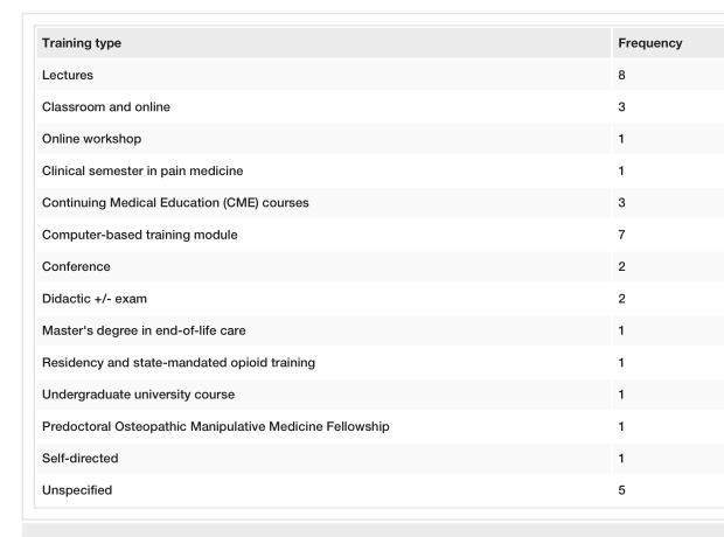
<table><tbody><tr><td>Training type</td><td>Frequency</td></tr><tr><td>Lectures</td><td>8</td></tr><tr><td>Classroom and online</td><td>3</td></tr><tr><td>Online workshop</td><td>1</td></tr><tr><td>Clinical semester in pain medicine</td><td>1</td></tr><tr><td>Continuing Medical Education (CME) courses</td><td>3</td></tr><tr><td>Computer-based training module</td><td>7</td></tr><tr><td>Conference</td><td>2</td></tr><tr><td>Didactic +/- exam</td><td>2</td></tr><tr><td>Master&#x27;s degree in end-of-life care</td><td>1</td></tr><tr><td>Residency and state-mandated opioid training</td><td>1</td></tr><tr><td>Undergraduate university course</td><td>1</td></tr><tr><td>Predoctoral Osteopathic Manipulative Medicine Fellowship</td><td>1</td></tr><tr><td>Self-directed</td><td>1</td></tr><tr><td>Unspecified</td><td>5</td></tr></tbody></table>